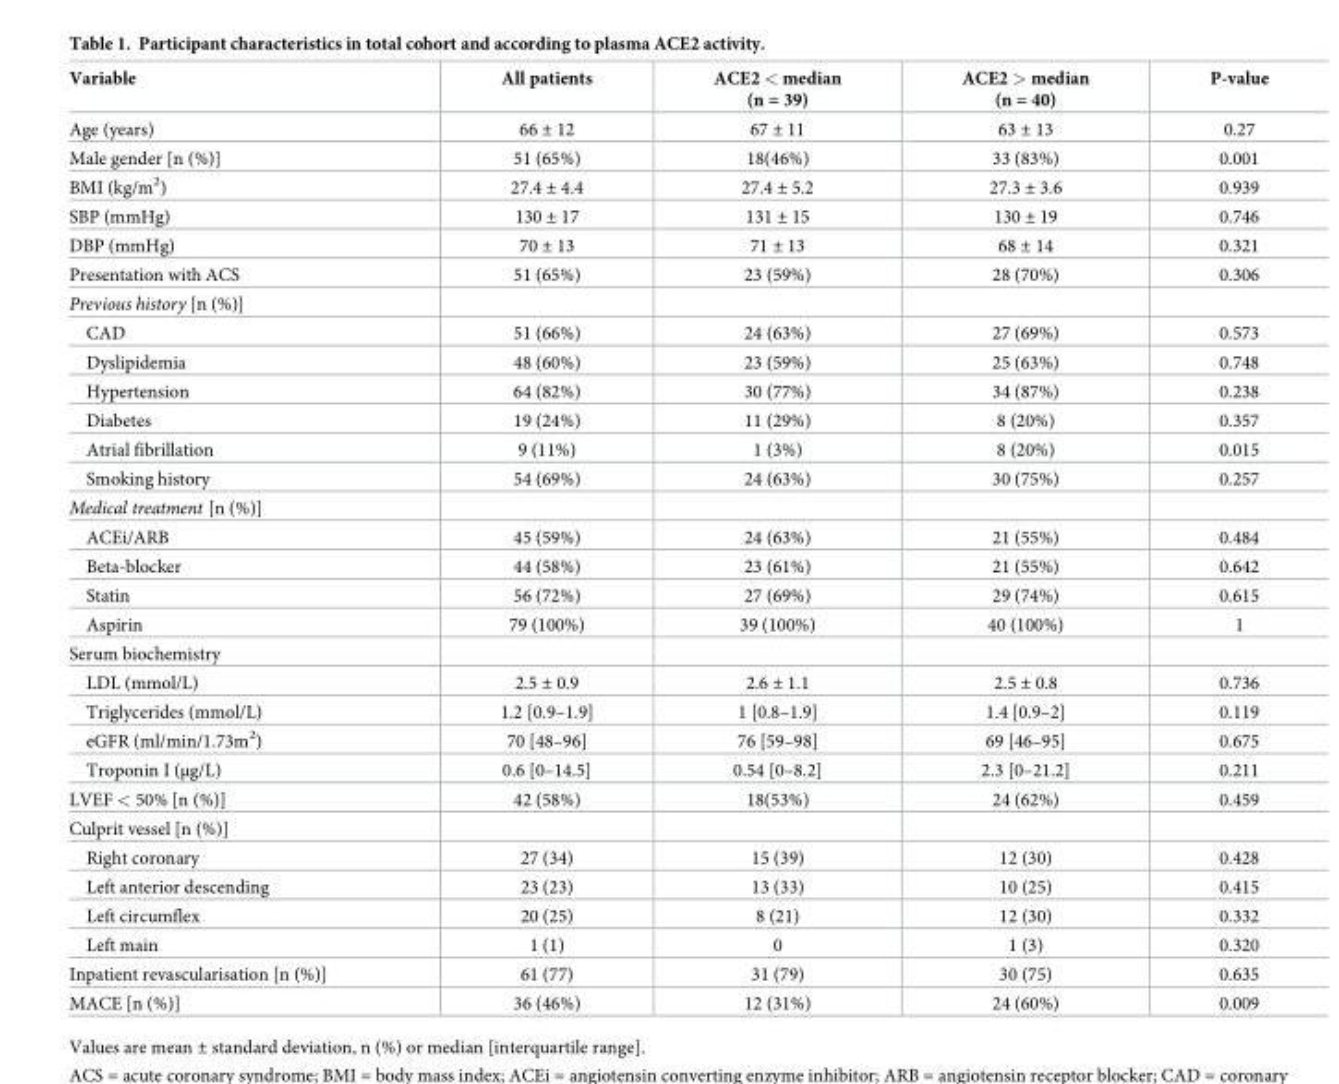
<table><thead><tr><td>Variable</td><td>All patients</td><td>ACE2 &lt; median (n = 39)</td><td>ACE2 &gt; median (n = 40)</td><td>P-value</td></tr></thead><tbody><tr><td>Age (years)</td><td>66 ± 12</td><td>67 ± 11</td><td>63 ± 13</td><td>0.27</td></tr><tr><td>Male gender [n (%)]</td><td>51 (65%)</td><td>18(46%)</td><td>33 (83%)</td><td>0.001</td></tr><tr><td>BMI (kg/m<sup>2</sup>)</td><td>27.4 ± 4.4</td><td>27.4 ± 5.2</td><td>27.3 ± 3.6</td><td>0.939</td></tr><tr><td>SBP (mmHg)</td><td>130 ± 17</td><td>131 ± 15</td><td>130 ± 19</td><td>0.746</td></tr><tr><td>DBP (mmHg)</td><td>70 ± 13</td><td>71 ± 13</td><td>68 ± 14</td><td>0.321</td></tr><tr><td>Presentation with ACS</td><td>51 (65%)</td><td>23 (59%)</td><td>28 (70%)</td><td>0.306</td></tr><tr><td colspan="5">Previous history [n (%)]</td></tr><tr><td>CAD</td><td>51 (66%)</td><td>24 (63%)</td><td>27 (69%)</td><td>0.573</td></tr><tr><td>Dyslipidemia</td><td>48 (60%)</td><td>23 (59%)</td><td>25 (63%)</td><td>0.748</td></tr><tr><td>Hypertension</td><td>64 (82%)</td><td>30 (77%)</td><td>34 (87%)</td><td>0.238</td></tr><tr><td>Diabetes</td><td>19 (24%)</td><td>11 (29%)</td><td>8 (20%)</td><td>0.357</td></tr><tr><td>Atrial fibrillation</td><td>9 (11%)</td><td>1 (3%)</td><td>8 (20%)</td><td>0.015</td></tr><tr><td>Smoking history</td><td>54 (69%)</td><td>24 (63%)</td><td>30 (75%)</td><td>0.257</td></tr><tr><td colspan="5">Medical treatment [n (%)]</td></tr><tr><td>ACEi/ARB</td><td>45 (59%)</td><td>24 (63%)</td><td>21 (55%)</td><td>0.484</td></tr><tr><td>Beta-blocker</td><td>44 (58%)</td><td>23 (61%)</td><td>21 (55%)</td><td>0.642</td></tr><tr><td>Statin</td><td>56 (72%)</td><td>27 (69%)</td><td>29 (74%)</td><td>0.615</td></tr><tr><td>Aspirin</td><td>79 (100%)</td><td>39 (100%)</td><td>40 (100%)</td><td>1</td></tr><tr><td colspan="5">Serum biochemistry</td></tr><tr><td>LDL (mmol/L)</td><td>2.5 ± 0.9</td><td>2.6 ± 1.1</td><td>2.5 ± 0.8</td><td>0.736</td></tr><tr><td>Triglycerides (mmol/L)</td><td>1.2 [0.9–1.9]</td><td>1 [0.8–1.9]</td><td>1.4 [0.9–2]</td><td>0.119</td></tr><tr><td>eGFR (ml/min/1.73m<sup>2</sup>)</td><td>70 [48–96]</td><td>76 [59–98]</td><td>69 [46–95]</td><td>0.675</td></tr><tr><td>Troponin I (μg/L)</td><td>0.6 [0–14.5]</td><td>0.54 [0–8.2]</td><td>2.3 [0–21.2]</td><td>0.211</td></tr><tr><td>LVEF &lt; 50% [n (%)]</td><td>42 (58%)</td><td>18(53%)</td><td>24 (62%)</td><td>0.459</td></tr><tr><td colspan="5">Culprit vessel [n (%)]</td></tr><tr><td>Right coronary</td><td>27 (34)</td><td>15 (39)</td><td>12 (30)</td><td>0.428</td></tr><tr><td>Left anterior descending</td><td>23 (23)</td><td>13 (33)</td><td>10 (25)</td><td>0.415</td></tr><tr><td>Left circumflex</td><td>20 (25)</td><td>8 (21)</td><td>12 (30)</td><td>0.332</td></tr><tr><td>Left main</td><td>1 (1)</td><td>0</td><td>1 (3)</td><td>0.320</td></tr><tr><td>Inpatient revascularisation [n (%)]</td><td>61 (77)</td><td>31 (79)</td><td>30 (75)</td><td>0.635</td></tr><tr><td>MACE [n (%)]</td><td>36 (46%)</td><td>12 (31%)</td><td>24 (60%)</td><td>0.009</td></tr></tbody></table>